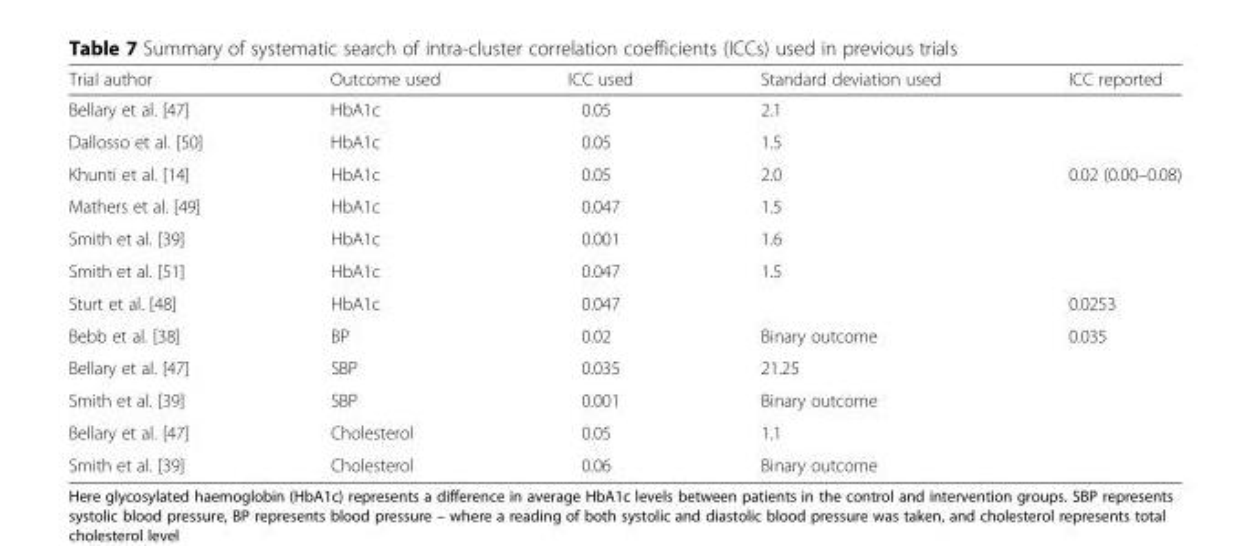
<table><thead><tr><td>Trial author</td><td>Outcome used</td><td>ICC used</td><td>Standard deviation used</td><td>ICC reported</td></tr></thead><tbody><tr><td>Bellary et al. [47]</td><td>HbA1c</td><td>0.05</td><td>2.1</td><td></td></tr><tr><td>Dallosso et al. [50]</td><td>HbA1c</td><td>0.05</td><td>1.5</td><td></td></tr><tr><td>Khunti et al. [14]</td><td>HbA1c</td><td>0.05</td><td>2.0</td><td>0.02 (0.00–0.08)</td></tr><tr><td>Mathers et al. [49]</td><td>HbA1c</td><td>0.047</td><td>1.5</td><td></td></tr><tr><td>Smith et al. [39]</td><td>HbA1c</td><td>0.001</td><td>1.6</td><td></td></tr><tr><td>Smith et al. [51]</td><td>HbA1c</td><td>0.047</td><td>1.5</td><td></td></tr><tr><td>Sturt et al. [48]</td><td>HbA1c</td><td>0.047</td><td></td><td>0.0253</td></tr><tr><td>Bebb et al. [38]</td><td>BP</td><td>0.02</td><td>Binary outcome</td><td>0.035</td></tr><tr><td>Bellary et al. [47]</td><td>SBP</td><td>0.035</td><td>21.25</td><td></td></tr><tr><td>Smith et al. [39]</td><td>SBP</td><td>0.001</td><td>Binary outcome</td><td></td></tr><tr><td>Bellary et al. [47]</td><td>Cholesterol</td><td>0.05</td><td>1.1</td><td></td></tr><tr><td>Smith et al. [39]</td><td>Cholesterol</td><td>0.06</td><td>Binary outcome</td><td></td></tr></tbody></table>